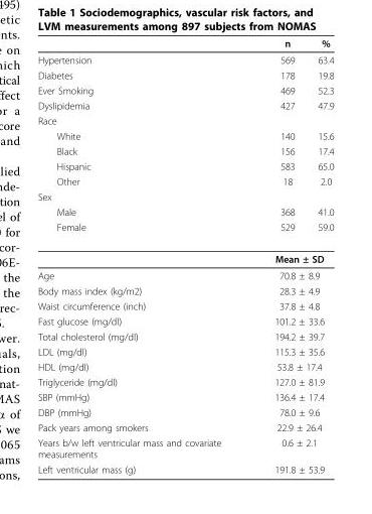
<table><thead><tr><td></td><td>n</td><td>%</td></tr></thead><tbody><tr><td>Hypertension</td><td>569</td><td>63.4</td></tr><tr><td>Diabetes</td><td>178</td><td>19.8</td></tr><tr><td>Ever Smoking</td><td>469</td><td>52.3</td></tr><tr><td>Dyslipidemia</td><td>427</td><td>47.9</td></tr><tr><td colspan="3">Race</td></tr><tr><td>White</td><td>140</td><td>15.6</td></tr><tr><td>Black</td><td>156</td><td>17.4</td></tr><tr><td>Hispanic</td><td>583</td><td>65.0</td></tr><tr><td>Other</td><td>18</td><td>2.0</td></tr><tr><td colspan="3">Sex</td></tr><tr><td>Male</td><td>368</td><td>41.0</td></tr><tr><td rowspan="2">Female</td><td>529</td><td>59.0</td></tr><tr><td colspan="2">Mean ± SD</td></tr><tr><td>Age</td><td colspan="2">70.8 ± 8.9</td></tr><tr><td>Body mass index (kg/m2)</td><td colspan="2">28.3 ± 4.9</td></tr><tr><td>Waist circumference (inch)</td><td colspan="2">37.8 ± 4.8</td></tr><tr><td>Fast glucose (mg/dl)</td><td colspan="2">101.2 ± 33.6</td></tr><tr><td>Total cholesterol (mg/dl)</td><td colspan="2">194.2 ± 39.7</td></tr><tr><td>LDL (mg/dl)</td><td colspan="2">115.3 ± 35.6</td></tr><tr><td>HDL (mg/dl)</td><td colspan="2">53.8 ± 17.4</td></tr><tr><td>Triglyceride (mg/dl)</td><td colspan="2">127.0 ± 81.9</td></tr><tr><td>SBP (mmHg)</td><td colspan="2">136.4 ± 17.4</td></tr><tr><td>DBP (mmHg)</td><td colspan="2">78.0 ± 9.6</td></tr><tr><td>Pack years among smokers</td><td colspan="2">22.9 ± 26.4</td></tr><tr><td>Years b/w left ventricular mass and covariate measurements</td><td colspan="2">0.6 ± 2.1</td></tr><tr><td>Left ventricular mass (g)</td><td colspan="2">191.8 ± 53.9</td></tr></tbody></table>